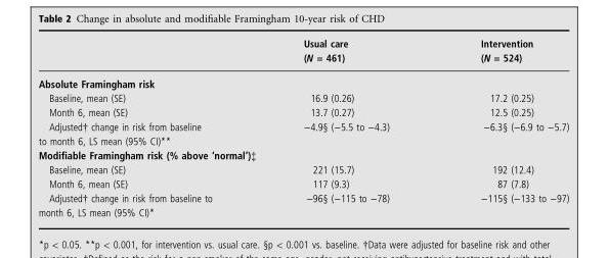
<table><thead><tr><td></td><td>Usual care (N = 461)</td><td>Intervention (N = 524)</td></tr></thead><tbody><tr><td colspan="3">Absolute Framingham risk</td></tr><tr><td>Baseline, mean (SE)</td><td>16.9 (0.26)</td><td>17.2 (0.25)</td></tr><tr><td>Month 6, mean (SE)</td><td>13.7 (0.27)</td><td>12.5 (0.25)</td></tr><tr><td>Adjusted† change in risk from baseline to month 6, LS mean (95% CI)**</td><td>−4.9§ (−5.5 to −4.3)</td><td>−6.3§ (−6.9 to −5.7)</td></tr><tr><td colspan="3">Modifiable Framingham risk (% above ‘normal’)‡</td></tr><tr><td>Baseline, mean (SE)</td><td>221 (15.7)</td><td>192 (12.4)</td></tr><tr><td>Month 6, mean (SE)</td><td>117 (9.3)</td><td>87 (7.8)</td></tr><tr><td>Adjusted† change in risk from baseline to month 6, LS mean (95% CI)*</td><td>−96§ (−115 to −78)</td><td>−115§ (−133 to −97)</td></tr></tbody></table>